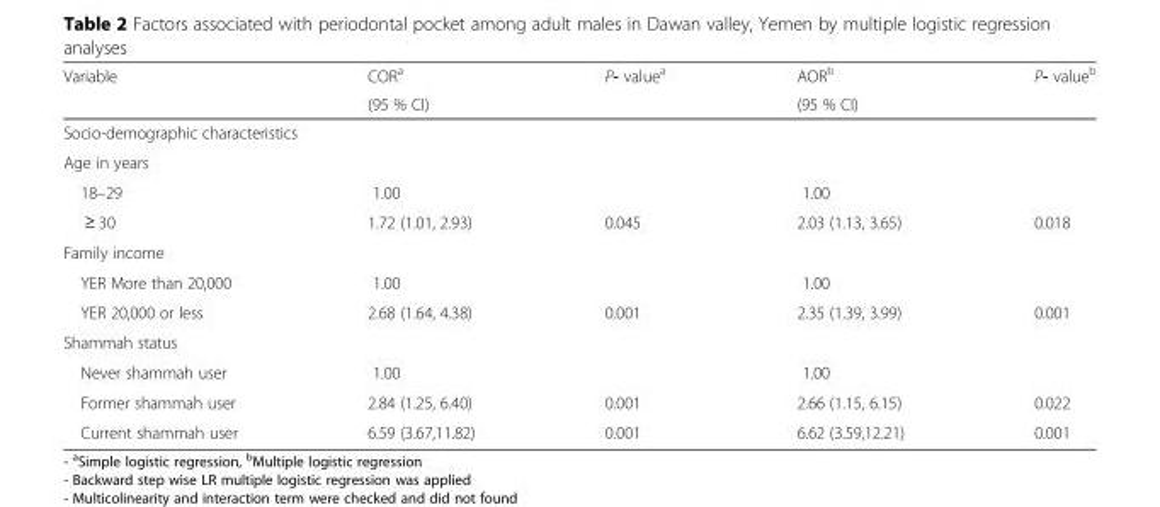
<table><thead><tr><td rowspan="2">Variable</td><td rowspan="2">COR<sup>a</sup> (95 % CI)</td><td rowspan="2">P- value<sup>a</sup></td><td rowspan="2">AOR<sup>b</sup> (95 % CI)</td><td rowspan="2">P- value<sup>b</sup></td></tr><tr></tr></thead><tbody><tr><td colspan="5">Socio-demographic characteristics</td></tr><tr><td colspan="5">Age in years</td></tr><tr><td>18–29</td><td>1.00</td><td></td><td>1.00</td><td></td></tr><tr><td>≥ 30</td><td>1.72 (1.01, 2.93)</td><td>0.045</td><td>2.03 (1.13, 3.65)</td><td>0.018</td></tr><tr><td colspan="5">Family income</td></tr><tr><td>YER More than 20,000</td><td>1.00</td><td></td><td>1.00</td><td></td></tr><tr><td>YER 20,000 or less</td><td>2.68 (1.64, 4.38)</td><td>0.001</td><td>2.35 (1.39, 3.99)</td><td>0.001</td></tr><tr><td colspan="5">Shammah status</td></tr><tr><td>Never shammah user</td><td>1.00</td><td></td><td>1.00</td><td></td></tr><tr><td>Former shammah user</td><td>2.84 (1.25, 6.40)</td><td>0.001</td><td>2.66 (1.15, 6.15)</td><td>0.022</td></tr><tr><td>Current shammah user</td><td>6.59 (3.67,11.82)</td><td>0.001</td><td>6.62 (3.59,12.21)</td><td>0.001</td></tr></tbody></table>